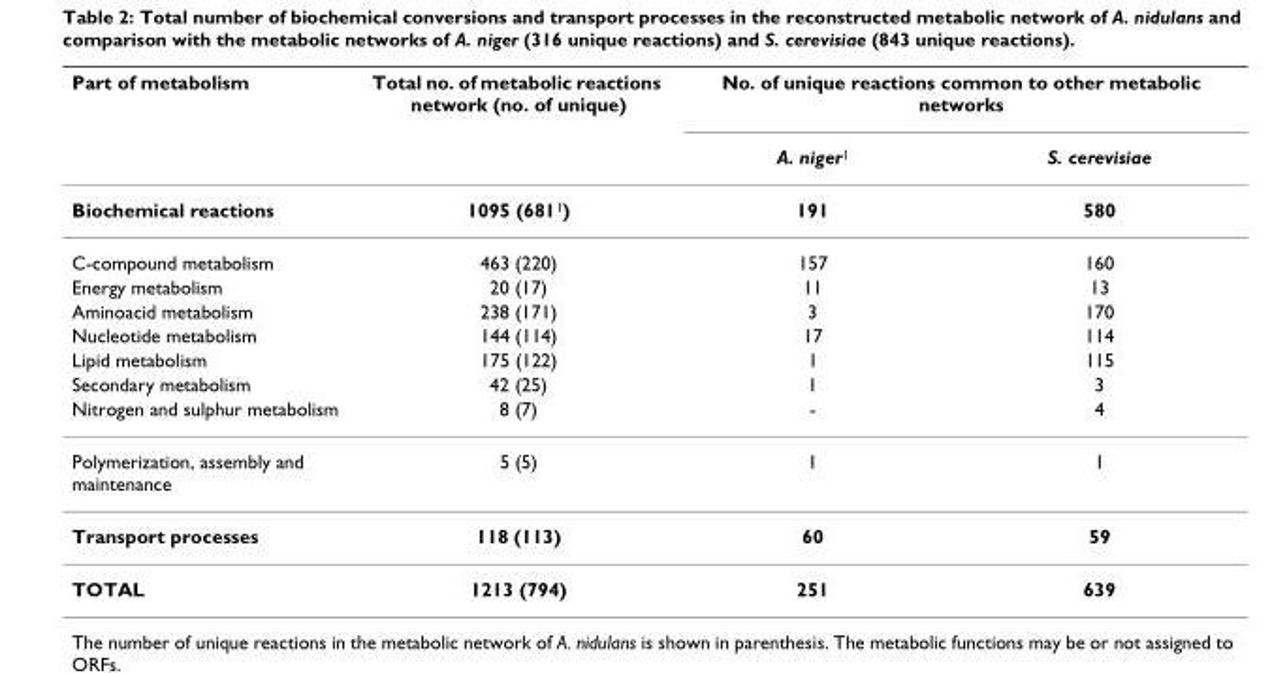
<table><thead><tr><td rowspan="2">Part of metabolism</td><td rowspan="2">Total no. of metabolic reactions network (no. of unique)</td><td colspan="2">No. of unique reactions common to other metabolic networks</td></tr><tr><td>A. niger<sup>1</sup></td><td>S. cerevisiae</td></tr></thead><tbody><tr><td>Biochemical reactions</td><td>1095 (681<sup>1</sup>)</td><td>191</td><td>580</td></tr><tr><td>C-compound metabolism</td><td>463 (220)</td><td>157</td><td>160</td></tr><tr><td>Energy metabolism</td><td>20 (17)</td><td>11</td><td>13</td></tr><tr><td>Aminoacid metabolism</td><td>238 (171)</td><td>3</td><td>170</td></tr><tr><td>Nucleotide metabolism</td><td>144 (114)</td><td>17</td><td>114</td></tr><tr><td>Lipid metabolism</td><td>175 (122)</td><td>1</td><td>115</td></tr><tr><td>Secondary metabolism</td><td>42 (25)</td><td>1</td><td>3</td></tr><tr><td>Nitrogen and sulphur metabolism</td><td>8 (7)</td><td>-</td><td>4</td></tr><tr><td>Polymerization, assembly and maintenance</td><td>5 (5)</td><td>1</td><td>1</td></tr><tr><td>Transport processes</td><td>118 (113)</td><td>60</td><td>59</td></tr><tr><td>TOTAL</td><td>1213 (794)</td><td>251</td><td>639</td></tr></tbody></table>